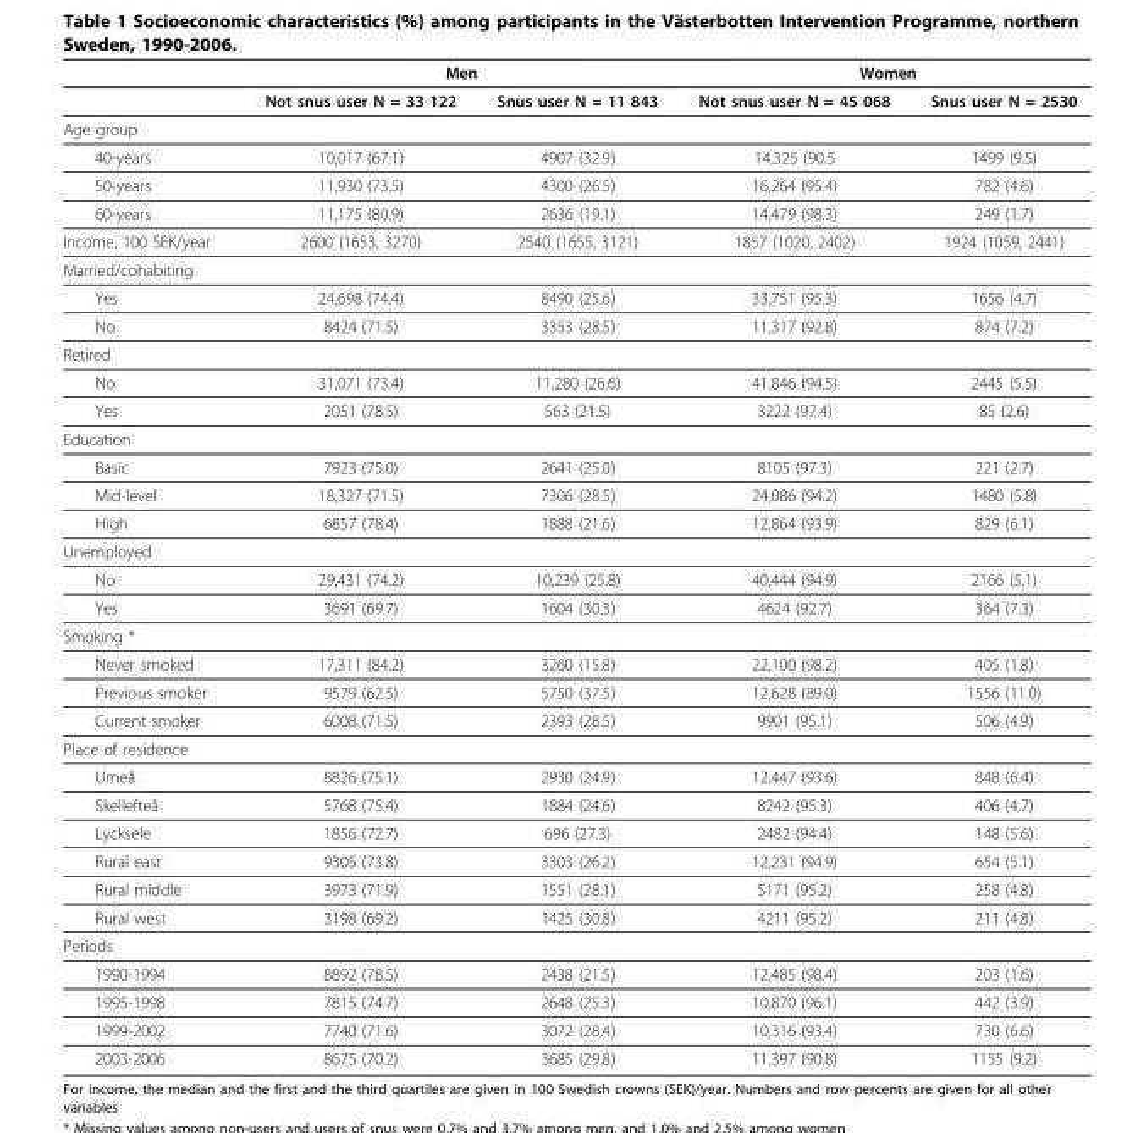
<table><thead><tr><td rowspan="2"></td><td colspan="2">Men</td><td colspan="2">Women</td></tr><tr><td>Not snus user N = 33 122</td><td>Snus user N = 11 843</td><td>Not snus user N = 45 068</td><td>Snus user N = 2530</td></tr></thead><tbody><tr><td colspan="5">Age group</td></tr><tr><td>40-years</td><td>10,017 (67.1)</td><td>4907 (32.9)</td><td>14,325 (90.5</td><td>1499 (9.5)</td></tr><tr><td>50-years</td><td>11,930 (73.5)</td><td>4300 (26.5)</td><td>16,264 (95.4)</td><td>782 (4.6)</td></tr><tr><td>60-years</td><td>11,175 (80.9)</td><td>2636 (19.1)</td><td>14,479 (98.3)</td><td>249 (1.7)</td></tr><tr><td>Income, 100 SEK/year</td><td>2600 (1653, 3270)</td><td>2540 (1655, 3121)</td><td>1857 (1020, 2402)</td><td>1924 (1059, 2441)</td></tr><tr><td colspan="5">Married/cohabiting</td></tr><tr><td>Yes</td><td>24,698 (74.4)</td><td>8490 (25.6)</td><td>33,751 (95.3)</td><td>1656 (4.7)</td></tr><tr><td>No</td><td>8424 (71.5)</td><td>3353 (28.5)</td><td>11,317 (92.8)</td><td>874 (7.2)</td></tr><tr><td colspan="5">Retired</td></tr><tr><td>No</td><td>31,071 (73.4)</td><td>11,280 (26.6)</td><td>41,846 (94.5)</td><td>2445 (5.5)</td></tr><tr><td>Yes</td><td>2051 (78.5)</td><td>563 (21.5)</td><td>3222 (97.4)</td><td>85 (2.6)</td></tr><tr><td colspan="5">Education</td></tr><tr><td>Basic</td><td>7923 (75.0)</td><td>2641 (25.0)</td><td>8105 (97.3)</td><td>221 (2.7)</td></tr><tr><td>Mid-level</td><td>18,327 (71.5)</td><td>7306 (28.5)</td><td>24,086 (94.2)</td><td>1480 (5.8)</td></tr><tr><td>High</td><td>6857 (78.4)</td><td>1888 (21.6)</td><td>12,864 (93.9)</td><td>829 (6.1)</td></tr><tr><td colspan="5">Unemployed</td></tr><tr><td>No</td><td>29,431 (74.2)</td><td>10,239 (25.8)</td><td>40,444 (94.9)</td><td>2166 (5.1)</td></tr><tr><td>Yes</td><td>3691 (69.7)</td><td>1604 (30.3)</td><td>4624 (92.7)</td><td>364 (7.3)</td></tr><tr><td colspan="5">Smoking *</td></tr><tr><td>Never smoked</td><td>17,311 (84.2)</td><td>3260 (15.8)</td><td>22,100 (98.2)</td><td>405 (1.8)</td></tr><tr><td>Previous smoker</td><td>9579 (62.5)</td><td>5750 (37.5)</td><td>12,628 (89.0)</td><td>1556 (11.0)</td></tr><tr><td>Current smoker</td><td>6008 (71.5)</td><td>2393 (28.5)</td><td>9901 (95.1)</td><td>506 (4.9)</td></tr><tr><td colspan="5">Place of residence</td></tr><tr><td>Umeå</td><td>8826 (75.1)</td><td>2930 (24.9)</td><td>12,447 (93.6)</td><td>848 (6.4)</td></tr><tr><td>Skellefteå</td><td>5768 (75.4)</td><td>1884 (24.6)</td><td>8242 (95.3)</td><td>406 (4.7)</td></tr><tr><td>Lycksele</td><td>1856 (72.7)</td><td>696 (27.3)</td><td>2482 (94.4)</td><td>148 (5.6)</td></tr><tr><td>Rural east</td><td>9305 (73.8)</td><td>3303 (26.2)</td><td>12,231 (94.9)</td><td>654 (5.1)</td></tr><tr><td>Rural middle</td><td>3973 (71.9)</td><td>1551 (28.1)</td><td>5171 (95.2)</td><td>258 (4.8)</td></tr><tr><td>Rural west</td><td>3198 (69.2)</td><td>1425 (30.8)</td><td>4211 (95.2)</td><td>211 (4.8)</td></tr><tr><td colspan="5">Periods</td></tr><tr><td>1990-1994</td><td>8892 (78.5)</td><td>2438 (21.5)</td><td>12,485 (98.4)</td><td>203 (1.6)</td></tr><tr><td>1995-1998</td><td>7815 (74.7)</td><td>2648 (25.3)</td><td>10,870 (96.1)</td><td>442 (3.9)</td></tr><tr><td>1999-2002</td><td>7740 (71.6)</td><td>3072 (28.4)</td><td>10,316 (93.4)</td><td>730 (6.6)</td></tr><tr><td>2003-2006</td><td>8675 (70.2)</td><td>3685 (29.8)</td><td>11,397 (90.8)</td><td>1155 (9.2)</td></tr></tbody></table>